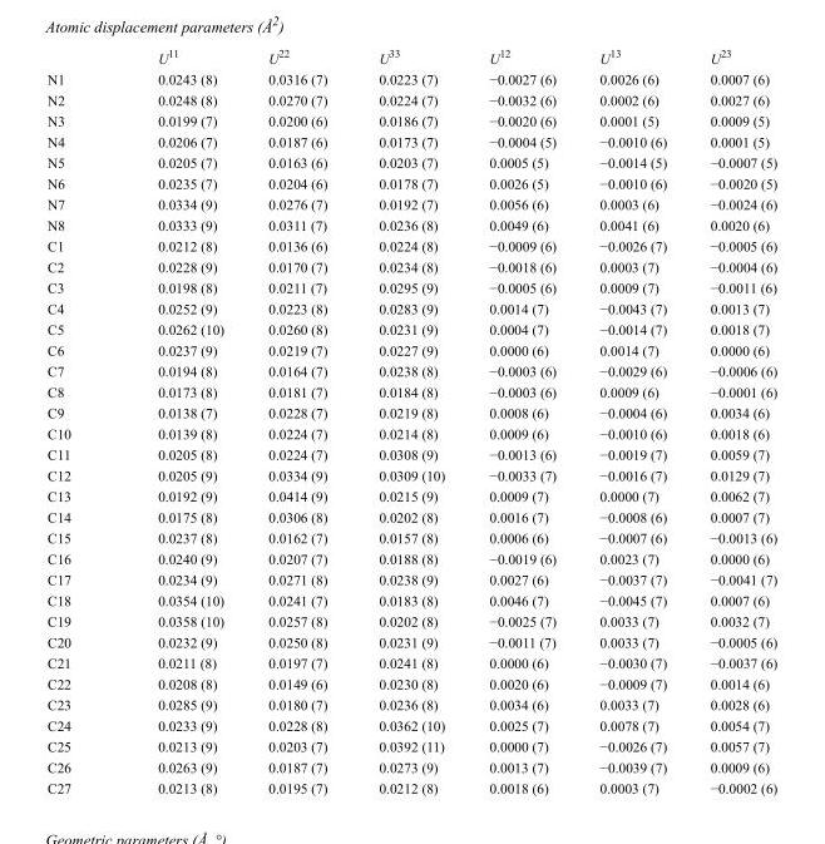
<table><thead><tr><td></td><td>U<sup>11</sup></td><td>U<sup>22</sup></td><td>U<sup>33</sup></td><td>U<sup>12</sup></td><td>U<sup>13</sup></td><td>U<sup>23</sup></td></tr></thead><tbody><tr><td>N1</td><td>0.0243 (8)</td><td>0.0316 (7)</td><td>0.0223 (7)</td><td>−0.0027 (6)</td><td>0.0026 (6)</td><td>0.0007 (6)</td></tr><tr><td>N2</td><td>0.0248 (8)</td><td>0.0270 (7)</td><td>0.0224 (7)</td><td>−0.0032 (6)</td><td>0.0002 (6)</td><td>0.0027 (6)</td></tr><tr><td>N3</td><td>0.0199 (7)</td><td>0.0200 (6)</td><td>0.0186 (7)</td><td>−0.0020 (6)</td><td>0.0001 (5)</td><td>0.0009 (5)</td></tr><tr><td>N4</td><td>0.0206 (7)</td><td>0.0187 (6)</td><td>0.0173 (7)</td><td>−0.0004 (5)</td><td>−0.0010 (6)</td><td>0.0001 (5)</td></tr><tr><td>N5</td><td>0.0205 (7)</td><td>0.0163 (6)</td><td>0.0203 (7)</td><td>0.0005 (5)</td><td>−0.0014 (5)</td><td>−0.0007 (5)</td></tr><tr><td>N6</td><td>0.0235 (7)</td><td>0.0204 (6)</td><td>0.0178 (7)</td><td>0.0026 (5)</td><td>−0.0010 (6)</td><td>−0.0020 (5)</td></tr><tr><td>N7</td><td>0.0334 (9)</td><td>0.0276 (7)</td><td>0.0192 (7)</td><td>0.0056 (6)</td><td>0.0003 (6)</td><td>−0.0024 (6)</td></tr><tr><td>N8</td><td>0.0333 (9)</td><td>0.0311 (7)</td><td>0.0236 (8)</td><td>0.0049 (6)</td><td>0.0041 (6)</td><td>0.0020 (6)</td></tr><tr><td>C1</td><td>0.0212 (8)</td><td>0.0136 (6)</td><td>0.0224 (8)</td><td>−0.0009 (6)</td><td>−0.0026 (7)</td><td>−0.0005 (6)</td></tr><tr><td>C2</td><td>0.0228 (9)</td><td>0.0170 (7)</td><td>0.0234 (8)</td><td>−0.0018 (6)</td><td>0.0003 (7)</td><td>−0.0004 (6)</td></tr><tr><td>C3</td><td>0.0198 (8)</td><td>0.0211 (7)</td><td>0.0295 (9)</td><td>−0.0005 (6)</td><td>0.0009 (7)</td><td>−0.0011 (6)</td></tr><tr><td>C4</td><td>0.0252 (9)</td><td>0.0223 (8)</td><td>0.0283 (9)</td><td>0.0014 (7)</td><td>−0.0043 (7)</td><td>0.0013 (7)</td></tr><tr><td>C5</td><td>0.0262 (10)</td><td>0.0260 (8)</td><td>0.0231 (9)</td><td>0.0004 (7)</td><td>−0.0014 (7)</td><td>0.0018 (7)</td></tr><tr><td>C6</td><td>0.0237 (9)</td><td>0.0219 (7)</td><td>0.0227 (9)</td><td>0.0000 (6)</td><td>0.0014 (7)</td><td>0.0000 (6)</td></tr><tr><td>C7</td><td>0.0194 (8)</td><td>0.0164 (7)</td><td>0.0238 (8)</td><td>−0.0003 (6)</td><td>−0.0029 (6)</td><td>−0.0006 (6)</td></tr><tr><td>C8</td><td>0.0173 (8)</td><td>0.0181 (7)</td><td>0.0184 (8)</td><td>−0.0003 (6)</td><td>0.0009 (6)</td><td>−0.0001 (6)</td></tr><tr><td>C9</td><td>0.0138 (7)</td><td>0.0228 (7)</td><td>0.0219 (8)</td><td>0.0008 (6)</td><td>−0.0004 (6)</td><td>0.0034 (6)</td></tr><tr><td>C10</td><td>0.0139 (8)</td><td>0.0224 (7)</td><td>0.0214 (8)</td><td>0.0009 (6)</td><td>−0.0010 (6)</td><td>0.0018 (6)</td></tr><tr><td>C11</td><td>0.0205 (8)</td><td>0.0224 (7)</td><td>0.0308 (9)</td><td>−0.0013 (6)</td><td>−0.0019 (7)</td><td>0.0059 (7)</td></tr><tr><td>C12</td><td>0.0205 (9)</td><td>0.0334 (9)</td><td>0.0309 (10)</td><td>−0.0033 (7)</td><td>−0.0016 (7)</td><td>0.0129 (7)</td></tr><tr><td>C13</td><td>0.0192 (9)</td><td>0.0414 (9)</td><td>0.0215 (9)</td><td>0.0009 (7)</td><td>0.0000 (7)</td><td>0.0062 (7)</td></tr><tr><td>C14</td><td>0.0175 (8)</td><td>0.0306 (8)</td><td>0.0202 (8)</td><td>0.0016 (7)</td><td>−0.0008 (6)</td><td>0.0007 (7)</td></tr><tr><td>C15</td><td>0.0237 (8)</td><td>0.0162 (7)</td><td>0.0157 (8)</td><td>0.0006 (6)</td><td>−0.0007 (6)</td><td>−0.0013 (6)</td></tr><tr><td>C16</td><td>0.0240 (9)</td><td>0.0207 (7)</td><td>0.0188 (8)</td><td>−0.0019 (6)</td><td>0.0023 (7)</td><td>0.0000 (6)</td></tr><tr><td>C17</td><td>0.0234 (9)</td><td>0.0271 (8)</td><td>0.0238 (9)</td><td>0.0027 (6)</td><td>−0.0037 (7)</td><td>−0.0041 (7)</td></tr><tr><td>C18</td><td>0.0354 (10)</td><td>0.0241 (7)</td><td>0.0183 (8)</td><td>0.0046 (7)</td><td>−0.0045 (7)</td><td>0.0007 (6)</td></tr><tr><td>C19</td><td>0.0358 (10)</td><td>0.0257 (8)</td><td>0.0202 (8)</td><td>−0.0025 (7)</td><td>0.0033 (7)</td><td>0.0032 (7)</td></tr><tr><td>C20</td><td>0.0232 (9)</td><td>0.0250 (8)</td><td>0.0231 (9)</td><td>−0.0011 (7)</td><td>0.0033 (7)</td><td>−0.0005 (6)</td></tr><tr><td>C21</td><td>0.0211 (8)</td><td>0.0197 (7)</td><td>0.0241 (8)</td><td>0.0000 (6)</td><td>−0.0030 (7)</td><td>−0.0037 (6)</td></tr><tr><td>C22</td><td>0.0208 (8)</td><td>0.0149 (6)</td><td>0.0230 (8)</td><td>0.0020 (6)</td><td>−0.0009 (7)</td><td>0.0014 (6)</td></tr><tr><td>C23</td><td>0.0285 (9)</td><td>0.0180 (7)</td><td>0.0236 (8)</td><td>0.0034 (6)</td><td>0.0033 (7)</td><td>0.0028 (6)</td></tr><tr><td>C24</td><td>0.0233 (9)</td><td>0.0228 (8)</td><td>0.0362 (10)</td><td>0.0025 (7)</td><td>0.0078 (7)</td><td>0.0054 (7)</td></tr><tr><td>C25</td><td>0.0213 (9)</td><td>0.0203 (7)</td><td>0.0392 (11)</td><td>0.0000 (7)</td><td>−0.0026 (7)</td><td>0.0057 (7)</td></tr><tr><td>C26</td><td>0.0263 (9)</td><td>0.0187 (7)</td><td>0.0273 (9)</td><td>0.0013 (7)</td><td>−0.0039 (7)</td><td>0.0009 (6)</td></tr><tr><td>C27</td><td>0.0213 (8)</td><td>0.0195 (7)</td><td>0.0212 (8)</td><td>0.0018 (6)</td><td>0.0003 (7)</td><td>−0.0002 (6)</td></tr></tbody></table>